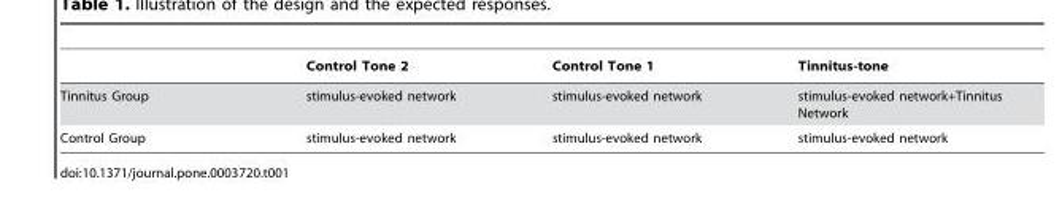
<table><thead><tr><td></td><td>Control Tone 2</td><td>Control Tone 1</td><td>Tinnitus-tone</td></tr></thead><tbody><tr><td>Tinnitus Group</td><td>stimulus-evoked network</td><td>stimulus-evoked network</td><td>stimulus-evoked network+Tinnitus Network</td></tr><tr><td>Control Group</td><td>stimulus-evoked network</td><td>stimulus-evoked network</td><td>stimulus-evoked network</td></tr></tbody></table>